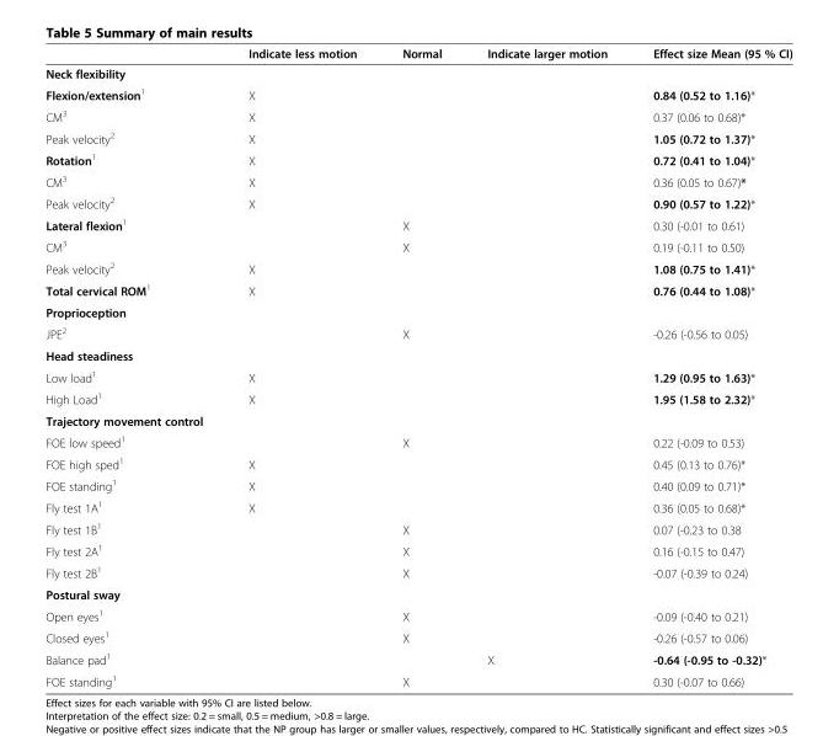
<table><thead><tr><td></td><td>Indicate less motion</td><td>Normal</td><td>Indicate larger motion</td><td>Effect size Mean (95 % CI)</td></tr></thead><tbody><tr><td colspan="5">Neck flexibility</td></tr><tr><td>Flexion/extension<sup>1</sup></td><td>X</td><td></td><td></td><td>0.84 (0.52 to 1.16)*</td></tr><tr><td>CM<sup>3</sup></td><td>X</td><td></td><td></td><td>0.37 (0.06 to 0.68)*</td></tr><tr><td>Peak velocity<sup>2</sup></td><td>X</td><td></td><td></td><td>1.05 (0.72 to 1.37)*</td></tr><tr><td>Rotation<sup>1</sup></td><td>X</td><td></td><td></td><td>0.72 (0.41 to 1.04)*</td></tr><tr><td>CM<sup>3</sup></td><td>X</td><td></td><td></td><td>0.36 (0.05 to 0.67)*</td></tr><tr><td>Peak velocity<sup>2</sup></td><td>X</td><td></td><td></td><td>0.90 (0.57 to 1.22)*</td></tr><tr><td>Lateral flexion<sup>1</sup></td><td></td><td>X</td><td></td><td>0.30 (-0.01 to 0.61)</td></tr><tr><td>CM<sup>3</sup></td><td></td><td>X</td><td></td><td>0.19 (-0.11 to 0.50)</td></tr><tr><td>Peak velocity<sup>2</sup></td><td>X</td><td></td><td></td><td>1.08 (0.75 to 1.41)*</td></tr><tr><td>Total cervical ROM<sup>1</sup></td><td>X</td><td></td><td></td><td>0.76 (0.44 to 1.08)*</td></tr><tr><td colspan="5">Proprioception</td></tr><tr><td>JPE<sup>2</sup></td><td></td><td>X</td><td></td><td>-0.26 (-0.56 to 0.05)</td></tr><tr><td colspan="5">Head steadiness</td></tr><tr><td>Low load<sup>1</sup></td><td>X</td><td></td><td></td><td>1.29 (0.95 to 1.63)*</td></tr><tr><td>High Load<sup>1</sup></td><td>X</td><td></td><td></td><td>1.95 (1.58 to 2.32)*</td></tr><tr><td colspan="5">Trajectory movement control</td></tr><tr><td>FOE low speed<sup>1</sup></td><td></td><td>X</td><td></td><td>0.22 (-0.09 to 0.53)</td></tr><tr><td>FOE high sped<sup>1</sup></td><td>X</td><td></td><td></td><td>0.45 (0.13 to 0.76)*</td></tr><tr><td>FOE standing<sup>1</sup></td><td>X</td><td></td><td></td><td>0.40 (0.09 to 0.71)*</td></tr><tr><td>Fly test 1A<sup>1</sup></td><td>X</td><td></td><td></td><td>0.36 (0.05 to 0.68)*</td></tr><tr><td>Fly test 1B<sup>1</sup></td><td></td><td>X</td><td></td><td>0.07 (-0.23 to 0.38</td></tr><tr><td>Fly test 2A<sup>1</sup></td><td></td><td>X</td><td></td><td>0.16 (-0.15 to 0.47)</td></tr><tr><td>Fly test 2B<sup>1</sup></td><td></td><td>X</td><td></td><td>-0.07 (-0.39 to 0.24)</td></tr><tr><td colspan="5">Postural sway</td></tr><tr><td>Open eyes<sup>1</sup></td><td></td><td>X</td><td></td><td>-0.09 (-0.40 to 0.21)</td></tr><tr><td>Closed eyes<sup>1</sup></td><td></td><td>X</td><td></td><td>-0.26 (-0.57 to 0.06)</td></tr><tr><td>Balance pad<sup>1</sup></td><td></td><td></td><td>X</td><td>-0.64 (-0.95 to -0.32)*</td></tr><tr><td>FOE standing<sup>1</sup></td><td></td><td>X</td><td></td><td>0.30 (-0.07 to 0.66)</td></tr></tbody></table>